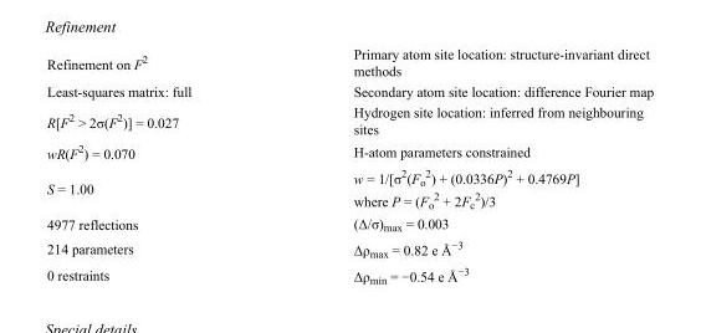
<table><tbody><tr><td>Refinement on F<sup>2</sup></td><td>Primary atom site location: structure-invariant direct methods</td></tr><tr><td>Least-squares matrix: full</td><td>Secondary atom site location: difference Fourier map</td></tr><tr><td>R[F<sup>2</sup> &gt; 2σ(F<sup>2</sup>)] = 0.027</td><td>Hydrogen site location: inferred from neighbouring sites</td></tr><tr><td>wR(F<sup>2</sup>) = 0.070</td><td>H-atom parameters constrained</td></tr><tr><td>S = 1.00</td><td>w = 1/[σ<sup>2</sup>(F<sub>o</sub> <sup>2</sup>) + (0.0336P)<sup>2</sup> + 0.4769P] where P = (F<sub>o</sub> <sup>2</sup> + 2F<sub>c</sub> <sup>2</sup>)/3</td></tr><tr><td>4977 reflections</td><td>(Δ/σ)<sub>max</sub> = 0.003</td></tr><tr><td>214 parameters</td><td>Δρ<sub>max</sub> = 0.82 e Å<sup>−3</sup></td></tr><tr><td>0 restraints</td><td>Δρ<sub>min</sub> = −0.54 e Å<sup>−3</sup></td></tr></tbody></table>